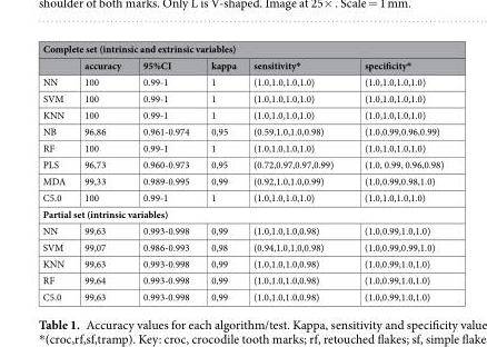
<table><thead><tr><td colspan="6">Complete set (intrinsic and extrinsic variables)</td></tr><tr><td></td><td>accuracy</td><td>95%CI</td><td>kappa</td><td>sensitivity*</td><td>specificity*</td></tr></thead><tbody><tr><td>NN</td><td>100</td><td>0.99-1</td><td>1</td><td>(1.0,1.0,1.0,1.0)</td><td>(1.0,1.0,1.0,1.0)</td></tr><tr><td>SVM</td><td>100</td><td>0.99-1</td><td>1</td><td>(1.0,1.0,1.0,1.0)</td><td>(1.0,1.0,1.0,1.0)</td></tr><tr><td>KNN</td><td>100</td><td>0.99-1</td><td>1</td><td>(1.0,1.0,1.0,1.0)</td><td>(1.0,1.0,1.0,1.0)</td></tr><tr><td>NB</td><td>96,86</td><td>0.961-0.974</td><td>0,95</td><td>(0.59,1.0,1.0,0.98)</td><td>(1.0,0.99,0.96,0.99)</td></tr><tr><td>RF</td><td>100</td><td>0.99-1</td><td>1</td><td>(1.0,1.0,1.0,1.0)</td><td>(1.0,1.0,1.0,1.0)</td></tr><tr><td>PLS</td><td>96,73</td><td>0.960-0.973</td><td>0,95</td><td>(0.72,0.97,0.97,0.99)</td><td>(1.0, 0.99, 0.96,0.98)</td></tr><tr><td>MDA</td><td>99,33</td><td>0.989-0.995</td><td>0,99</td><td>(0.92,1.0,1.0,0.99)</td><td>(1.0,0.99,0.98,1.0)</td></tr><tr><td>C5.0</td><td>100</td><td>0.99-1</td><td>1</td><td>(1.0,1.0,1.0,1.0)</td><td>(1.0,1.0,1.0,1.0)</td></tr><tr><td colspan="6">Partial set (intrinsic variables)</td></tr><tr><td>NN</td><td>99,63</td><td>0.993-0.998</td><td>0,99</td><td>(1.0,1.0,1.0,0.98)</td><td>(1.0,0.99,1.0,1.0)</td></tr><tr><td>SVM</td><td>99,07</td><td>0.986-0.993</td><td>0,98</td><td>(0.94,1.0,1.0,0.98)</td><td>(1.0,0.99,0.99,1.0)</td></tr><tr><td>KNN</td><td>99,63</td><td>0.993-0.998</td><td>0,99</td><td>(1.0,1.0,1.0,0.98)</td><td>(1.0,0.99,1.0,1.0)</td></tr><tr><td>RF</td><td>99,64</td><td>0.993-0.998</td><td>0,99</td><td>(1.0,1.0,1.0,0.98)</td><td>(1.0,0.99,1.0,1.0)</td></tr><tr><td>C5.0</td><td>99,63</td><td>0.993-0.998</td><td>0,99</td><td>(1.0,1.0,1.0,0.98)</td><td>(1.0,0.99,1.0,1.0)</td></tr></tbody></table>